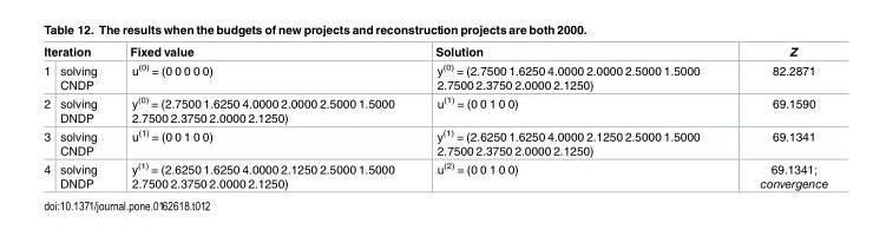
<table><thead><tr><td colspan="2">Iteration</td><td rowspan="2">Fixed value u<sup>(0)</sup> = (0 0 0 0 0)</td><td rowspan="2">Solution y<sup>(0)</sup> = (2.7500 1.6250 4.0000 2.0000 2.5000 1.5000 2.7500 2.3750 2.0000 2.1250)</td><td rowspan="2">Z 82.2871</td></tr><tr><td>1</td><td>solving CNDP</td></tr></thead><tbody><tr><td>2</td><td>solving DNDP</td><td>y<sup>(0)</sup> = (2.7500 1.6250 4.0000 2.0000 2.5000 1.5000 2.7500 2.3750 2.0000 2.1250)</td><td>u<sup>(1)</sup> = (0 0 1 0 0)</td><td>69.1590</td></tr><tr><td>3</td><td>solving CNDP</td><td>u<sup>(1)</sup> = (0 0 1 0 0)</td><td>y<sup>(1)</sup> = (2.6250 1.6250 4.0000 2.1250 2.5000 1.5000 2.7500 2.3750 2.0000 2.1250)</td><td>69.1341</td></tr><tr><td>4</td><td>solving DNDP</td><td>y<sup>(1)</sup> = (2.6250 1.6250 4.0000 2.1250 2.5000 1.5000 2.7500 2.3750 2.0000 2.1250)</td><td>u<sup>(2)</sup> = (0 0 1 0 0)</td><td>69.1341; convergence</td></tr></tbody></table>